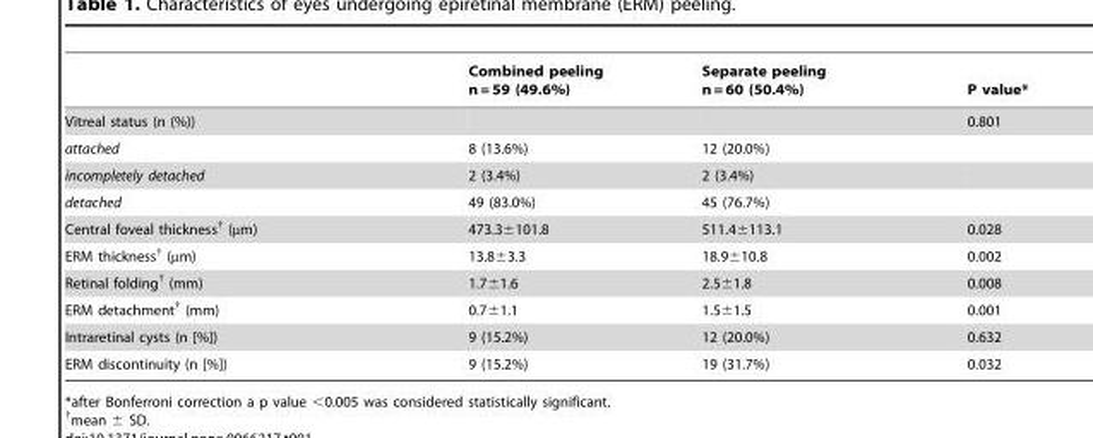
<table><thead><tr><td></td><td>Combined peeling n = 59 (49.6%)</td><td>Separate peeling n = 60 (50.4%)</td><td>P value*</td></tr></thead><tbody><tr><td>Vitreal status (n (%))</td><td></td><td></td><td>0.801</td></tr><tr><td>attached</td><td>8 (13.6%)</td><td>12 (20.0%)</td><td></td></tr><tr><td>incompletely detached</td><td>2 (3.4%)</td><td>2 (3.4%)</td><td></td></tr><tr><td>detached</td><td>49 (83.0%)</td><td>45 (76.7%)</td><td></td></tr><tr><td>Central foveal thickness† (µm)</td><td>473.3±101.8</td><td>511.4±113.1</td><td>0.028</td></tr><tr><td>ERM thickness† (µm)</td><td>13.8±3.3</td><td>18.9±10.8</td><td>0.002</td></tr><tr><td>Retinal folding† (mm)</td><td>1.7±1.6</td><td>2.5±1.8</td><td>0.008</td></tr><tr><td>ERM detachment† (mm)</td><td>0.7±1.1</td><td>1.5±1.5</td><td>0.001</td></tr><tr><td>Intraretinal cysts (n [%])</td><td>9 (15.2%)</td><td>12 (20.0%)</td><td>0.632</td></tr><tr><td>ERM discontinuity (n [%])</td><td>9 (15.2%)</td><td>19 (31.7%)</td><td>0.032</td></tr></tbody></table>